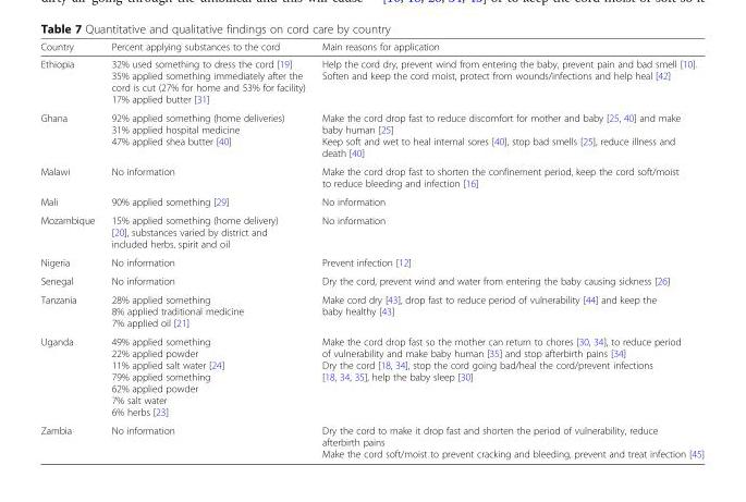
<table><thead><tr><td>Country</td><td>Percent applying substances to the cord</td><td>Main reasons for application</td></tr></thead><tbody><tr><td>Ethiopia</td><td>32% used something to dress the cord [19] 35% applied something immediately after the cord is cut (27% for home and 53% for facility) 17% applied butter [31]</td><td>Help the cord dry, prevent wind from entering the baby, prevent pain and bad smell [10]. Soften and keep the cord moist, protect from wounds/infections and help heal [42]</td></tr><tr><td>Ghana</td><td>92% applied something (home deliveries) 31% applied hospital medicine 47% applied shea butter [40]</td><td>Make the cord drop fast to reduce discomfort for mother and baby [25, 40] and make baby human [25] Keep soft and wet to heal internal sores [40], stop bad smells [25], reduce illness and death [40]</td></tr><tr><td>Malawi</td><td>No information</td><td>Make the cord drop fast to shorten the confinement period, keep the cord soft/moist to reduce bleeding and infection [16]</td></tr><tr><td>Mali</td><td>90% applied something [29]</td><td>No information</td></tr><tr><td>Mozambique</td><td>15% applied something (home delivery) [20], substances varied by district and included herbs, spirit and oil</td><td>No information</td></tr><tr><td>Nigeria</td><td>No information</td><td>Prevent infection [12]</td></tr><tr><td>Senegal</td><td>No information</td><td>Dry the cord, prevent wind and water from entering the baby causing sickness [26]</td></tr><tr><td>Tanzania</td><td>28% applied something 8% applied traditional medicine 7% applied oil [21]</td><td>Make cord dry [43], drop fast to reduce period of vulnerability [44] and keep the baby healthy [43]</td></tr><tr><td>Uganda</td><td>49% applied something 22% applied powder 11% applied salt water [24] 79% applied something 62% applied powder 7% salt water 6% herbs [23]</td><td>Make the cord drop fast so the mother can return to chores [30, 34], to reduce period of vulnerability and make baby human [35] and stop afterbirth pains [34] Dry the cord [18, 34], stop the cord going bad/heal the cord/prevent infections [18, 34, 35], help the baby sleep [30]</td></tr><tr><td>Zambia</td><td>No information</td><td>Dry the cord to make it drop fast and shorten the period of vulnerability, reduce afterbirth pains Make the cord soft/moist to prevent cracking and bleeding, prevent and treat infection [45]</td></tr></tbody></table>